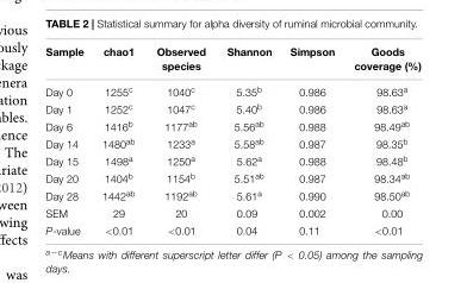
<table><thead><tr><td>Sample</td><td>chao1</td><td>Observed species</td><td>Shannon</td><td>Simpson</td><td>Goods coverage (%)</td></tr></thead><tbody><tr><td>Day 0</td><td>1255<sup>c</sup></td><td>1040<sup>c</sup></td><td>5.35<sup>b</sup></td><td>0.986</td><td>98.63<sup>a</sup></td></tr><tr><td>Day 1</td><td>1252<sup>c</sup></td><td>1047<sup>c</sup></td><td>5.40<sup>b</sup></td><td>0.986</td><td>98.63<sup>a</sup></td></tr><tr><td>Day 6</td><td>1416<sup>b</sup></td><td>1177<sup>ab</sup></td><td>5.56<sup>ab</sup></td><td>0.988</td><td>98.49<sup>ab</sup></td></tr><tr><td>Day 14</td><td>1480<sup>ab</sup></td><td>1233<sup>a</sup></td><td>5.58<sup>ab</sup></td><td>0.987</td><td>98.35<sup>b</sup></td></tr><tr><td>Day 15</td><td>1498<sup>a</sup></td><td>1250<sup>a</sup></td><td>5.62<sup>a</sup></td><td>0.988</td><td>98.48<sup>b</sup></td></tr><tr><td>Day 20</td><td>1404<sup>b</sup></td><td>1154<sup>b</sup></td><td>5.51<sup>ab</sup></td><td>0.987</td><td>98.34<sup>ab</sup></td></tr><tr><td>Day 28</td><td>1442<sup>ab</sup></td><td>1192<sup>ab</sup></td><td>5.61<sup>a</sup></td><td>0.990</td><td>98.50<sup>ab</sup></td></tr><tr><td>SEM</td><td>29</td><td>20</td><td>0.09</td><td>0.002</td><td>0.00</td></tr><tr><td>P-value</td><td>&lt;0.01</td><td>&lt;0.01</td><td>0.04</td><td>0.11</td><td>&lt;0.01</td></tr></tbody></table>